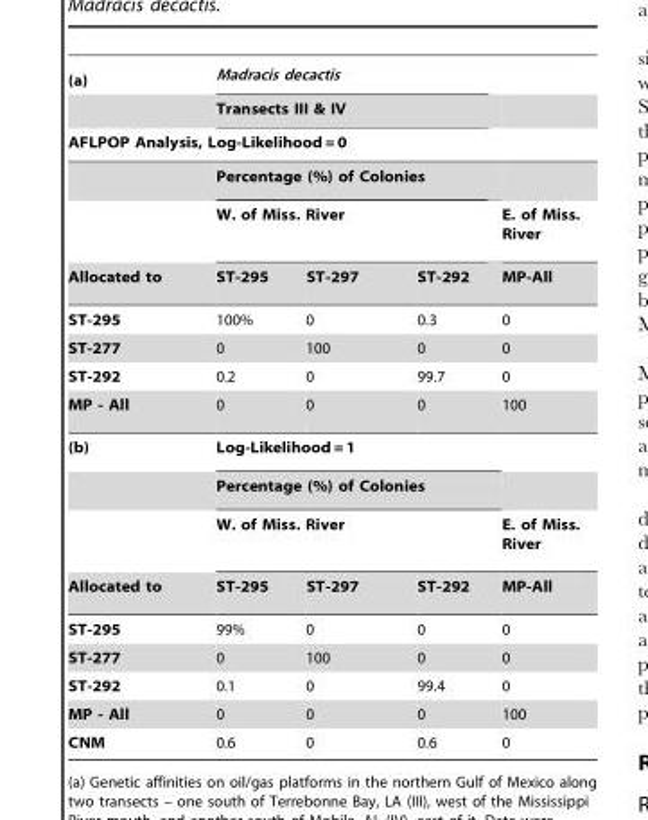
<table><thead><tr><td rowspan="2">(a)</td><td rowspan="2" colspan="3">Madracis decactis Transects III &amp; IV</td><td rowspan="2"></td></tr><tr></tr><tr><td colspan="5">AFLPOP Analysis, Log-Likelihood = 0</td></tr><tr><td rowspan="3">Allocated to</td><td rowspan="2" colspan="3">Percentage (%) of Colonies W. of Miss. River</td><td rowspan="3">E. of Miss. River MP-All</td></tr><tr></tr><tr><td>ST-295</td><td>ST-297</td><td>ST-292</td></tr></thead><tbody><tr><td>ST-295</td><td>100%</td><td>0</td><td>0.3</td><td>0</td></tr><tr><td>ST-277</td><td>0</td><td>100</td><td>0</td><td>0</td></tr><tr><td>ST-292</td><td>0.2</td><td>0</td><td>99.7</td><td>0</td></tr><tr><td>MP - All</td><td>0</td><td>0</td><td>0</td><td>100</td></tr><tr><td rowspan="3">(b)</td><td colspan="3">Log-Likelihood = 1</td><td></td></tr><tr><td colspan="3">Percentage (%) of Colonies</td><td></td></tr><tr><td colspan="3">W. of Miss. River</td><td>E. of Miss. River</td></tr><tr><td>Allocated to</td><td>ST-295</td><td>ST-297</td><td>ST-292</td><td>MP-All</td></tr><tr><td>ST-295</td><td>99%</td><td>0</td><td>0</td><td>0</td></tr><tr><td>ST-277</td><td>0</td><td>100</td><td>0</td><td>0</td></tr><tr><td>ST-292</td><td>0.1</td><td>0</td><td>99.4</td><td>0</td></tr><tr><td>MP - All</td><td>0</td><td>0</td><td>0</td><td>100</td></tr><tr><td>CNM</td><td>0.6</td><td>0</td><td>0.6</td><td>0</td></tr></tbody></table>